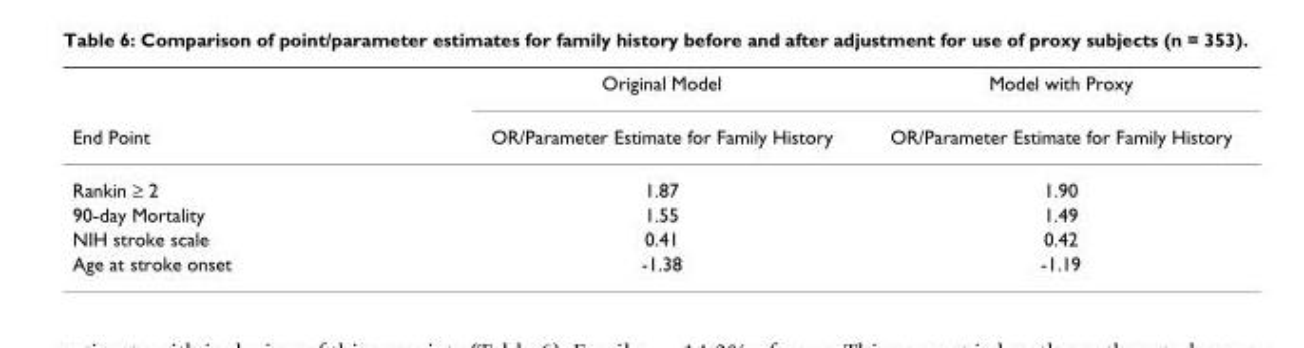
<table><thead><tr><td rowspan="2">End Point</td><td rowspan="2">Original Model OR/Parameter Estimate for Family History</td><td rowspan="2">Model with Proxy OR/Parameter Estimate for Family History</td></tr><tr></tr></thead><tbody><tr><td>Rankin ≥ 2</td><td>1.87</td><td>1.90</td></tr><tr><td>90-day Mortality</td><td>1.55</td><td>1.49</td></tr><tr><td>NIH stroke scale</td><td>0.41</td><td>0.42</td></tr><tr><td>Age at stroke onset</td><td>-1.38</td><td>-1.19</td></tr></tbody></table>